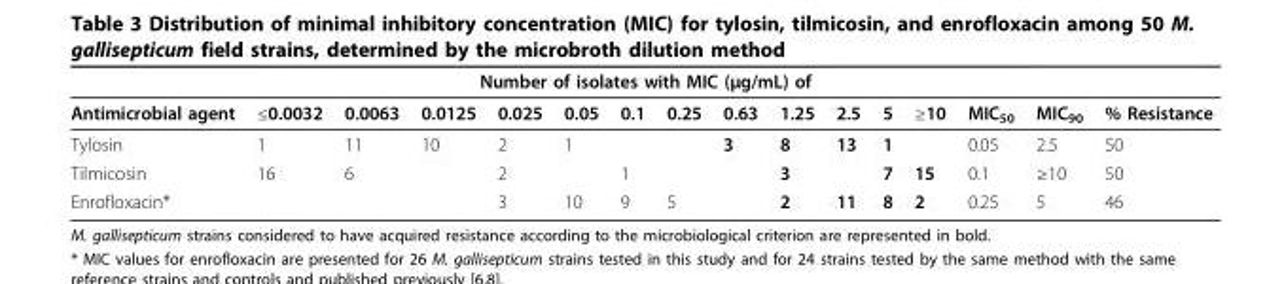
<table><thead><tr><td colspan="16">Number of isolates with MIC (μg/mL) of</td></tr><tr><td>Antimicrobial agent</td><td>≤0.0032</td><td>0.0063</td><td>0.0125</td><td>0.025</td><td>0.05</td><td>0.1</td><td>0.25</td><td>0.63</td><td>1.25</td><td>2.5</td><td>5</td><td>≥10</td><td>MIC<sub>50</sub></td><td>MIC<sub>90</sub></td><td>% Resistance</td></tr></thead><tbody><tr><td>Tylosin</td><td>1</td><td>11</td><td>10</td><td>2</td><td>1</td><td></td><td></td><td>3</td><td>8</td><td>13</td><td>1</td><td></td><td>0.05</td><td>2.5</td><td>50</td></tr><tr><td>Tilmicosin</td><td>16</td><td>6</td><td></td><td>2</td><td></td><td>1</td><td></td><td></td><td>3</td><td></td><td>7</td><td>15</td><td>0.1</td><td>≥10</td><td>50</td></tr><tr><td>Enrofloxacin*</td><td></td><td></td><td></td><td>3</td><td>10</td><td>9</td><td>5</td><td></td><td>2</td><td>11</td><td>8</td><td>2</td><td>0.25</td><td>5</td><td>46</td></tr></tbody></table>